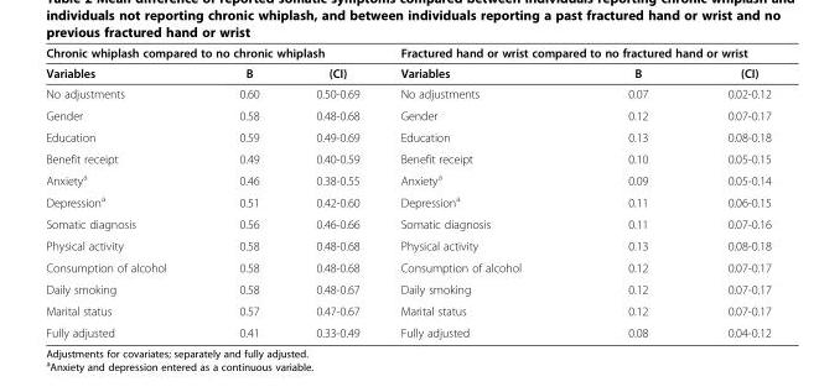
<table><thead><tr><td colspan="3">Chronic whiplash compared to no chronic whiplash</td><td colspan="3">Fractured hand or wrist compared to no fractured hand or wrist</td></tr><tr><td>Variables</td><td>B</td><td>(CI)</td><td>Variables</td><td>B</td><td>(CI)</td></tr></thead><tbody><tr><td>No adjustments</td><td>0.60</td><td>0.50-0.69</td><td>No adjustments</td><td>0.07</td><td>0.02-0.12</td></tr><tr><td>Gender</td><td>0.58</td><td>0.48-0.68</td><td>Gender</td><td>0.12</td><td>0.07-0.17</td></tr><tr><td>Education</td><td>0.59</td><td>0.49-0.69</td><td>Education</td><td>0.13</td><td>0.08-0.18</td></tr><tr><td>Benefit receipt</td><td>0.49</td><td>0.40-0.59</td><td>Benefit receipt</td><td>0.10</td><td>0.05-0.15</td></tr><tr><td>Anxiety<sup>a</sup></td><td>0.46</td><td>0.38-0.55</td><td>Anxiety<sup>a</sup></td><td>0.09</td><td>0.05-0.14</td></tr><tr><td>Depression<sup>a</sup></td><td>0.51</td><td>0.42-0.60</td><td>Depression<sup>a</sup></td><td>0.11</td><td>0.06-0.15</td></tr><tr><td>Somatic diagnosis</td><td>0.56</td><td>0.46-0.66</td><td>Somatic diagnosis</td><td>0.11</td><td>0.07-0.16</td></tr><tr><td>Physical activity</td><td>0.58</td><td>0.48-0.68</td><td>Physical activity</td><td>0.13</td><td>0.08-0.18</td></tr><tr><td>Consumption of alcohol</td><td>0.58</td><td>0.48-0.68</td><td>Consumption of alcohol</td><td>0.12</td><td>0.07-0.17</td></tr><tr><td>Daily smoking</td><td>0.58</td><td>0.48-0.67</td><td>Daily smoking</td><td>0.12</td><td>0.07-0.17</td></tr><tr><td>Marital status</td><td>0.57</td><td>0.47-0.67</td><td>Marital status</td><td>0.12</td><td>0.07-0.17</td></tr><tr><td>Fully adjusted</td><td>0.41</td><td>0.33-0.49</td><td>Fully adjusted</td><td>0.08</td><td>0.04-0.12</td></tr></tbody></table>